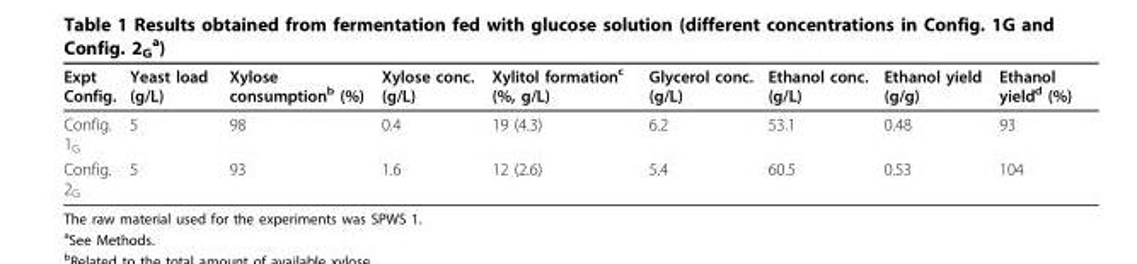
<table><thead><tr><td>Expt Config.</td><td>Yeast load (g/L)</td><td>Xylose consumption<sup>b</sup> (%)</td><td>Xylose conc. (g/L)</td><td>Xylitol formation<sup>c</sup> (%, g/L)</td><td>Glycerol conc. (g/L)</td><td>Ethanol conc. (g/L)</td><td>Ethanol yield (g/g)</td><td>Ethanol yield<sup>d</sup> (%)</td></tr></thead><tbody><tr><td>Config. 1<sub>G</sub></td><td>5</td><td>98</td><td>0.4</td><td>19 (4.3)</td><td>6.2</td><td>53.1</td><td>0.48</td><td>93</td></tr><tr><td>Config. 2<sub>G</sub></td><td>5</td><td>93</td><td>1.6</td><td>12 (2.6)</td><td>5.4</td><td>60.5</td><td>0.53</td><td>104</td></tr></tbody></table>